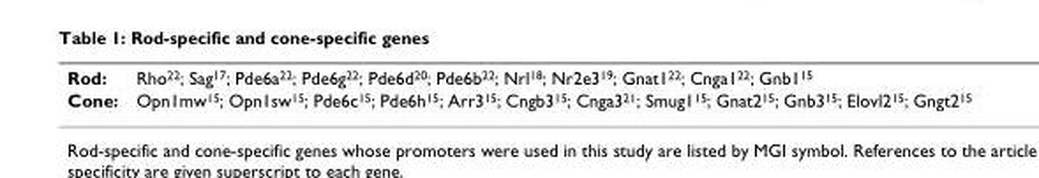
<table><tbody><tr><td>Rod:</td><td>Rho<sup>22</sup>; Sag<sup>17</sup>; Pde6a<sup>22</sup>; Pde6g<sup>22</sup>; Pde6d<sup>20</sup>; Pde6b<sup>22</sup>; Nrl<sup>18</sup>; Nr2e3<sup>19</sup>; Gnat1<sup>22</sup>; Cnga1<sup>22</sup>; Gnb1<sup>15</sup></td></tr><tr><td>Cone:</td><td>Opn1mw<sup>15</sup>; Opn1sw<sup>15</sup>; Pde6c<sup>15</sup>; Pde6h<sup>15</sup>; Arr3<sup>15</sup>; Cngb3<sup>15</sup>; Cnga3<sup>21</sup>; Smug1<sup>15</sup>; Gnat2<sup>15</sup>; Gnb3<sup>15</sup>; Elovl2<sup>15</sup>; Gngt2<sup>15</sup></td></tr></tbody></table>